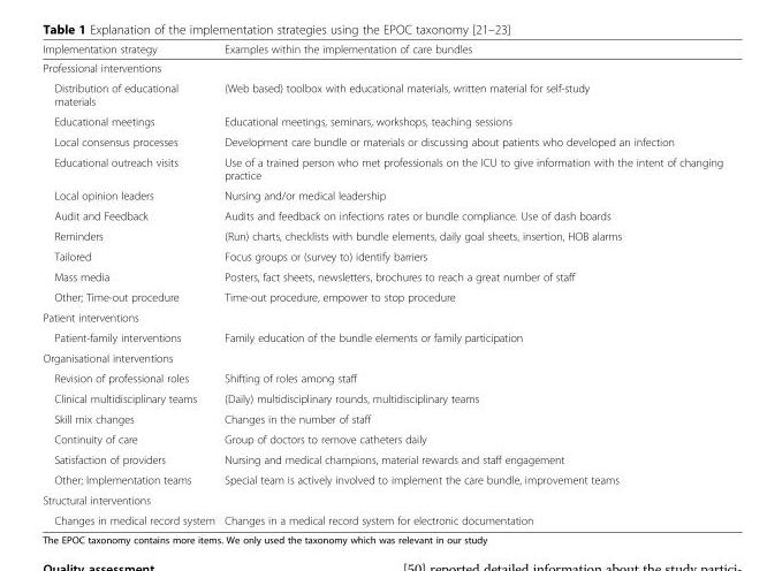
<table><thead><tr><td>Implementation strategy</td><td>Examples within the implementation of care bundles</td></tr></thead><tbody><tr><td colspan="2">Professional interventions</td></tr><tr><td>Distribution of educational materials</td><td>(Web based) toolbox with educational materials, written material for self-study</td></tr><tr><td>Educational meetings</td><td>Educational meetings, seminars, workshops, teaching sessions</td></tr><tr><td>Local consensus processes</td><td>Development care bundle or materials or discussing about patients who developed an infection</td></tr><tr><td>Educational outreach visits</td><td>Use of a trained person who met professionals on the ICU to give information with the intent of changing practice</td></tr><tr><td>Local opinion leaders</td><td>Nursing and/or medical leadership</td></tr><tr><td>Audit and Feedback</td><td>Audits and feedback on infections rates or bundle compliance. Use of dash boards</td></tr><tr><td>Reminders</td><td>(Run) charts, checklists with bundle elements, daily goal sheets, insertion, HOB alarms</td></tr><tr><td>Tailored</td><td>Focus groups or (survey to) identify barriers</td></tr><tr><td>Mass media</td><td>Posters, fact sheets, newsletters, brochures to reach a great number of staff</td></tr><tr><td>Other; Time-out procedure</td><td>Time-out procedure, empower to stop procedure</td></tr><tr><td colspan="2">Patient interventions</td></tr><tr><td>Patient-family interventions</td><td>Family education of the bundle elements or family participation</td></tr><tr><td colspan="2">Organisational interventions</td></tr><tr><td>Revision of professional roles</td><td>Shifting of roles among staff</td></tr><tr><td>Clinical multidisciplinary teams</td><td>(Daily) multidisciplinary rounds, multidisciplinary teams</td></tr><tr><td>Skill mix changes</td><td>Changes in the number of staff</td></tr><tr><td>Continuity of care</td><td>Group of doctors to remove catheters daily</td></tr><tr><td>Satisfaction of providers</td><td>Nursing and medical champions, material rewards and staff engagement</td></tr><tr><td>Other; Implementation teams</td><td>Special team is actively involved to implement the care bundle, improvement teams</td></tr><tr><td colspan="2">Structural interventions</td></tr><tr><td>Changes in medical record system</td><td>Changes in a medical record system for electronic documentation</td></tr></tbody></table>